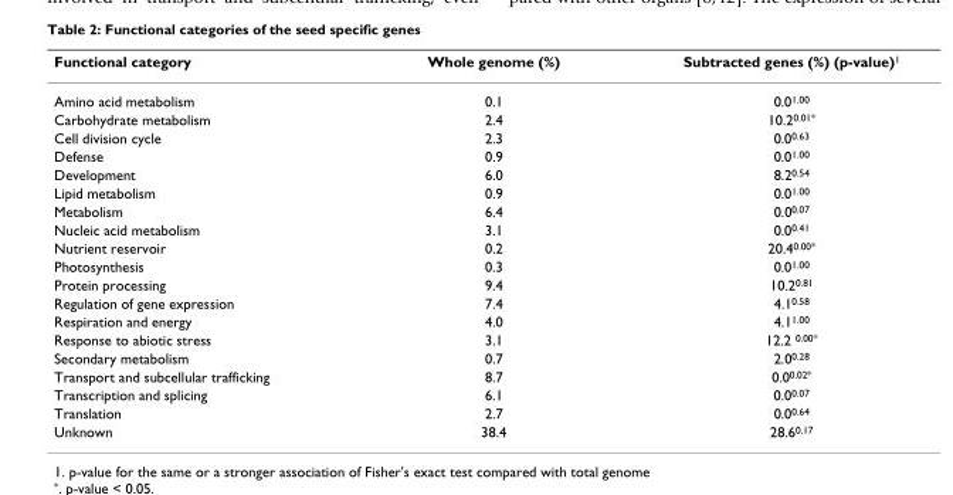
<table><thead><tr><td>Functional category</td><td>Whole genome (%)</td><td>Subtracted genes (%) (p-value)1</td></tr></thead><tbody><tr><td>Amino acid metabolism</td><td>0.1</td><td>0.01.00</td></tr><tr><td>Carbohydrate metabolism</td><td>2.4</td><td>10.20.01*</td></tr><tr><td>Cell division cycle</td><td>2.3</td><td>0.00.63</td></tr><tr><td>Defense</td><td>0.9</td><td>0.01.00</td></tr><tr><td>Development</td><td>6.0</td><td>8.20.54</td></tr><tr><td>Lipid metabolism</td><td>0.9</td><td>0.01.00</td></tr><tr><td>Metabolism</td><td>6.4</td><td>0.00.07</td></tr><tr><td>Nucleic acid metabolism</td><td>3.1</td><td>0.00.41</td></tr><tr><td>Nutrient reservoir</td><td>0.2</td><td>20.40.00*</td></tr><tr><td>Photosynthesis</td><td>0.3</td><td>0.01.00</td></tr><tr><td>Protein processing</td><td>9.4</td><td>10.20.81</td></tr><tr><td>Regulation of gene expression</td><td>7.4</td><td>4.10.58</td></tr><tr><td>Respiration and energy</td><td>4.0</td><td>4.11.00</td></tr><tr><td>Response to abiotic stress</td><td>3.1</td><td>12.2 0.00*</td></tr><tr><td>Secondary metabolism</td><td>0.7</td><td>2.00.28</td></tr><tr><td>Transport and subcellular trafficking</td><td>8.7</td><td>0.00.02*</td></tr><tr><td>Transcription and splicing</td><td>6.1</td><td>0.00.07</td></tr><tr><td>Translation</td><td>2.7</td><td>0.00.64</td></tr><tr><td>Unknown</td><td>38.4</td><td>28.60.17</td></tr></tbody></table>